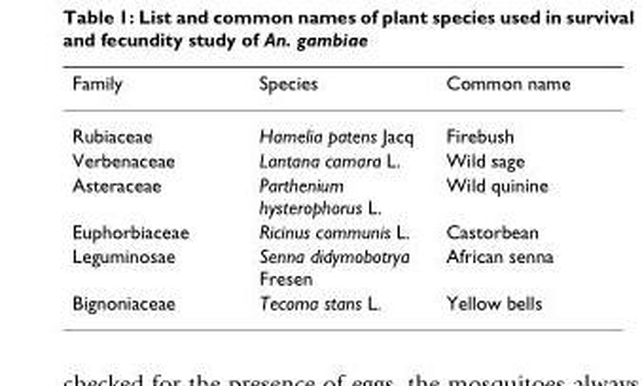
<table><thead><tr><td>Family</td><td>Species</td><td>Common name</td></tr></thead><tbody><tr><td>Rubiaceae</td><td>Hamelia patens Jacq</td><td>Firebush</td></tr><tr><td>Verbenaceae</td><td>Lantana camara L.</td><td>Wild sage</td></tr><tr><td>Asteraceae</td><td>Parthenium hysterophorus L.</td><td>Wild quinine</td></tr><tr><td>Euphorbiaceae</td><td>Ricinus communis L.</td><td>Castorbean</td></tr><tr><td>Leguminosae</td><td>Senna didymobotrya Fresen</td><td>African senna</td></tr><tr><td>Bignoniaceae</td><td>Tecoma stans L.</td><td>Yellow bells</td></tr></tbody></table>